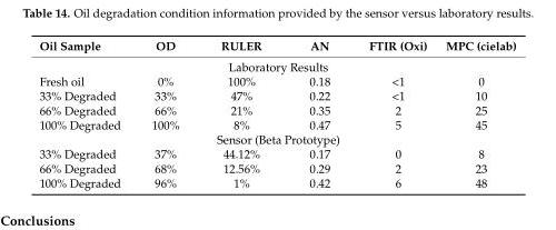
<table><thead><tr><td>Oil Sample</td><td>OD</td><td>RULER</td><td>AN</td><td>FTIR (Oxi)</td><td>MPC (cielab)</td></tr></thead><tbody><tr><td colspan="6">Laboratory Results</td></tr><tr><td>Fresh oil</td><td>0%</td><td>100%</td><td>0.18</td><td>&lt;1</td><td>0</td></tr><tr><td>33% Degraded</td><td>33%</td><td>47%</td><td>0.22</td><td>&lt;1</td><td>10</td></tr><tr><td>66% Degraded</td><td>66%</td><td>21%</td><td>0.35</td><td>2</td><td>25</td></tr><tr><td>100% Degraded</td><td>100%</td><td>8%</td><td>0.47</td><td>5</td><td>45</td></tr><tr><td colspan="6">Sensor (Beta Prototype)</td></tr><tr><td>33% Degraded</td><td>37%</td><td>44.12%</td><td>0.17</td><td>0</td><td>8</td></tr><tr><td>66% Degraded</td><td>68%</td><td>12.56%</td><td>0.29</td><td>2</td><td>23</td></tr><tr><td>100% Degraded</td><td>96%</td><td>1%</td><td>0.42</td><td>6</td><td>48</td></tr></tbody></table>